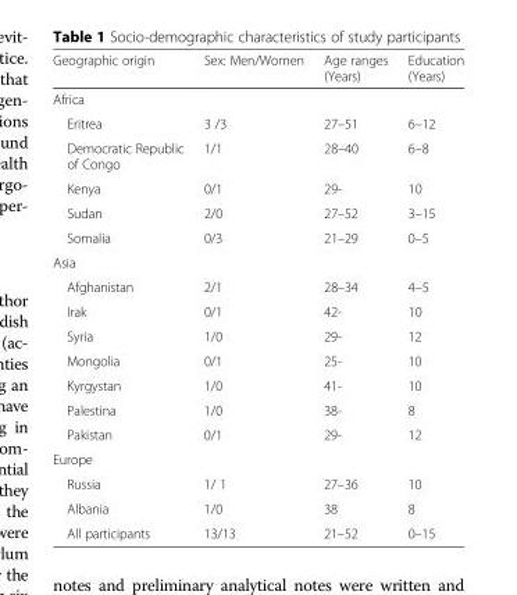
<table><thead><tr><td>Geographic origin</td><td>Sex: Men/Women</td><td>Age ranges (Years)</td><td>Education (Years)</td></tr></thead><tbody><tr><td colspan="4">Africa</td></tr><tr><td>Eritrea</td><td>3 /3</td><td>27–51</td><td>6–12</td></tr><tr><td>Democratic Republic of Congo</td><td>1/1</td><td>28–40</td><td>6–8</td></tr><tr><td>Kenya</td><td>0/1</td><td>29-</td><td>10</td></tr><tr><td>Sudan</td><td>2/0</td><td>27–52</td><td>3–15</td></tr><tr><td>Somalia</td><td>0/3</td><td>21–29</td><td>0–5</td></tr><tr><td colspan="4">Asia</td></tr><tr><td>Afghanistan</td><td>2/1</td><td>28–34</td><td>4–5</td></tr><tr><td>Irak</td><td>0/1</td><td>42-</td><td>10</td></tr><tr><td>Syria</td><td>1/0</td><td>29-</td><td>12</td></tr><tr><td>Mongolia</td><td>0/1</td><td>25-</td><td>10</td></tr><tr><td>Kyrgystan</td><td>1/0</td><td>41-</td><td>10</td></tr><tr><td>Palestina</td><td>1/0</td><td>38-</td><td>8</td></tr><tr><td>Pakistan</td><td>0/1</td><td>29-</td><td>12</td></tr><tr><td colspan="4">Europe</td></tr><tr><td>Russia</td><td>1/ 1</td><td>27–36</td><td>10</td></tr><tr><td>Albania</td><td>1/0</td><td>38</td><td>8</td></tr><tr><td>All participants</td><td>13/13</td><td>21–52</td><td>0–15</td></tr></tbody></table>